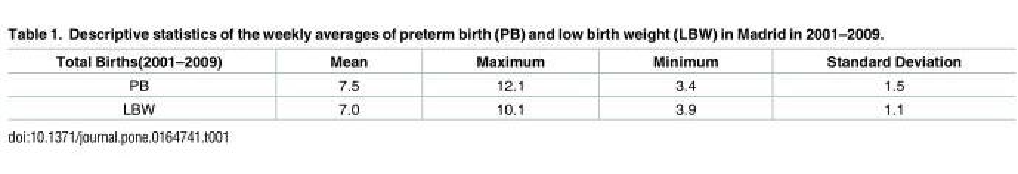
<table><thead><tr><td>Total Births(2001–2009)</td><td>Mean</td><td>Maximum</td><td>Minimum</td><td>Standard Deviation</td></tr></thead><tbody><tr><td>PB</td><td>7.5</td><td>12.1</td><td>3.4</td><td>1.5</td></tr><tr><td>LBW</td><td>7.0</td><td>10.1</td><td>3.9</td><td>1.1</td></tr></tbody></table>